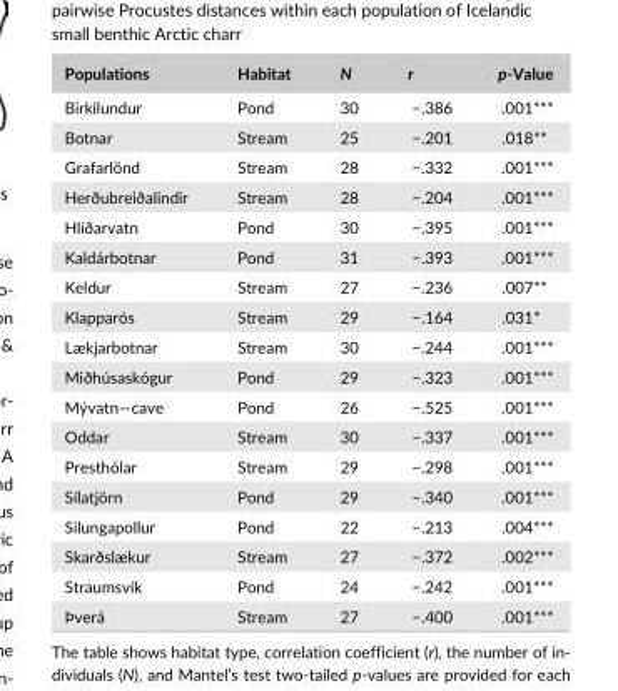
<table><thead><tr><td>Populations</td><td>Habitat</td><td>N</td><td>r</td><td>p- Value</td></tr></thead><tbody><tr><td>Birkilundur</td><td>Pond</td><td>30</td><td>−.386</td><td>.001***</td></tr><tr><td>Botnar</td><td>Stream</td><td>25</td><td>−.201</td><td>.018**</td></tr><tr><td>Grafarlönd</td><td>Stream</td><td>28</td><td>−.332</td><td>.001***</td></tr><tr><td>Herðubreiðalindir</td><td>Stream</td><td>28</td><td>−.204</td><td>.001***</td></tr><tr><td>Hlíðarvatn</td><td>Pond</td><td>30</td><td>−.395</td><td>.001***</td></tr><tr><td>Kaldárbotnar</td><td>Pond</td><td>31</td><td>−.393</td><td>.001***</td></tr><tr><td>Keldur</td><td>Stream</td><td>27</td><td>−.236</td><td>.007**</td></tr><tr><td>Klapparós</td><td>Stream</td><td>29</td><td>−.164</td><td>.031*</td></tr><tr><td>Lækjarbotnar</td><td>Stream</td><td>30</td><td>−.244</td><td>.001***</td></tr><tr><td>Miðhúsaskógur</td><td>Pond</td><td>29</td><td>−.323</td><td>.001***</td></tr><tr><td>Mývatn—cave</td><td>Pond</td><td>26</td><td>−.525</td><td>.001***</td></tr><tr><td>Oddar</td><td>Stream</td><td>30</td><td>−.337</td><td>.001***</td></tr><tr><td>Presthólar</td><td>Stream</td><td>29</td><td>−.298</td><td>.001***</td></tr><tr><td>Sílatjörn</td><td>Pond</td><td>29</td><td>−.340</td><td>.001***</td></tr><tr><td>Silungapollur</td><td>Pond</td><td>22</td><td>−.213</td><td>.004***</td></tr><tr><td>Skarðslækur</td><td>Stream</td><td>27</td><td>−.372</td><td>.002***</td></tr><tr><td>Straumsvík</td><td>Pond</td><td>24</td><td>−.242</td><td>.001***</td></tr><tr><td>Þverá</td><td>Stream</td><td>27</td><td>−.400</td><td>.001***</td></tr></tbody></table>